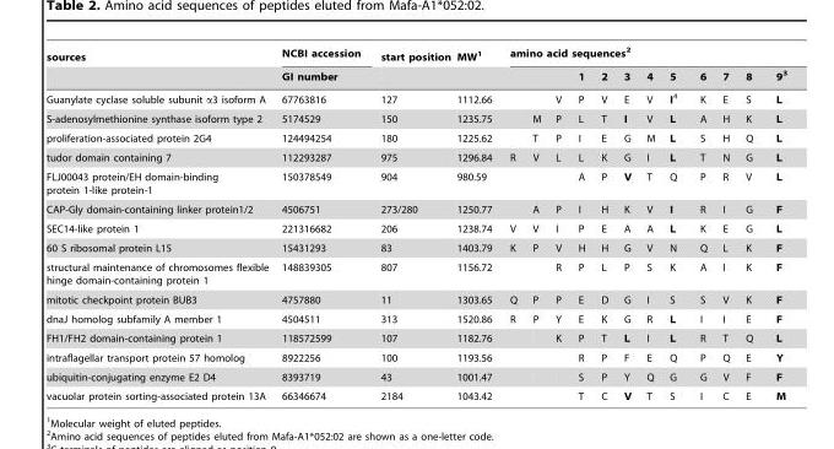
<table><thead><tr><td rowspan="2">sources</td><td rowspan="2">NCBI accession GI number</td><td rowspan="2">start position</td><td rowspan="2">MW<sup>1</sup></td><td colspan="12">amino acid sequences<sup>2</sup></td></tr><tr><td></td><td></td><td></td><td>1</td><td>2</td><td>3</td><td>4</td><td>5</td><td>6</td><td>7</td><td>8</td><td>9<sup>3</sup></td></tr></thead><tbody><tr><td>Guanylate cyclase soluble subunit α3 isoform A</td><td>67763816</td><td>127</td><td>1112.66</td><td></td><td></td><td>V</td><td>P</td><td>V</td><td>E</td><td>V</td><td>I4</td><td>K</td><td>E</td><td>S</td><td>L</td></tr><tr><td>S-adenosylmethionine synthase isoform type 2</td><td>5174529</td><td>150</td><td>1235.75</td><td></td><td>M</td><td>P</td><td>L</td><td>T</td><td>I</td><td>V</td><td>L</td><td>A</td><td>H</td><td>K</td><td>L</td></tr><tr><td>proliferation-associated protein 2G4</td><td>124494254</td><td>180</td><td>1225.62</td><td></td><td>T</td><td>P</td><td>I</td><td>E</td><td>G</td><td>M</td><td>L</td><td>S</td><td>H</td><td>Q</td><td>L</td></tr><tr><td>tudor domain containing 7</td><td>112293287</td><td>975</td><td>1296.84</td><td>R</td><td>V</td><td>L</td><td>L</td><td>K</td><td>G</td><td>I</td><td>L</td><td>T</td><td>N</td><td>G</td><td>L</td></tr><tr><td>FLJ00043 protein/EH domain-binding protein 1-like protein-1</td><td>150378549</td><td>904</td><td>980.59</td><td></td><td></td><td></td><td>A</td><td>P</td><td>V</td><td>T</td><td>Q</td><td>P</td><td>R</td><td>V</td><td>L</td></tr><tr><td>CAP-Gly domain-containing linker protein1/2</td><td>4506751</td><td>273/280</td><td>1250.77</td><td></td><td>A</td><td>P</td><td>I</td><td>H</td><td>K</td><td>V</td><td>I</td><td>R</td><td>I</td><td>G</td><td>F</td></tr><tr><td>SEC14-like protein 1</td><td>221316682</td><td>206</td><td>1238.74</td><td>V</td><td>V</td><td>I</td><td>P</td><td>E</td><td>A</td><td>A</td><td>L</td><td>K</td><td>E</td><td>G</td><td>L</td></tr><tr><td>60 S ribosomal protein L15</td><td>15431293</td><td>83</td><td>1403.79</td><td>K</td><td>P</td><td>V</td><td>H</td><td>H</td><td>G</td><td>V</td><td>N</td><td>Q</td><td>L</td><td>K</td><td>F</td></tr><tr><td>structural maintenance of chromosomes flexible hinge domain-containing protein 1</td><td>148839305</td><td>807</td><td>1156.72</td><td></td><td></td><td>R</td><td>P</td><td>L</td><td>P</td><td>S</td><td>K</td><td>A</td><td>I</td><td>K</td><td>F</td></tr><tr><td>mitotic checkpoint protein BUB3</td><td>4757880</td><td>11</td><td>1303.65</td><td>Q</td><td>P</td><td>P</td><td>E</td><td>D</td><td>G</td><td>I</td><td>S</td><td>S</td><td>V</td><td>K</td><td>F</td></tr><tr><td>dnaJ homolog subfamily A member 1</td><td>4504511</td><td>313</td><td>1520.86</td><td>R</td><td>P</td><td>Y</td><td>E</td><td>K</td><td>G</td><td>R</td><td>L</td><td>I</td><td>I</td><td>E</td><td>F</td></tr><tr><td>FH1/FH2 domain-containing protein 1</td><td>118572599</td><td>107</td><td>1182.76</td><td></td><td></td><td>K</td><td>P</td><td>T</td><td>L</td><td>I</td><td>L</td><td>R</td><td>T</td><td>Q</td><td>L</td></tr><tr><td>intraflagellar transport protein 57 homolog</td><td>8922256</td><td>100</td><td>1193.56</td><td></td><td></td><td></td><td>R</td><td>P</td><td>F</td><td>E</td><td>Q</td><td>P</td><td>Q</td><td>E</td><td>Y</td></tr><tr><td>ubiquitin-conjugating enzyme E2 D4</td><td>8393719</td><td>43</td><td>1001.47</td><td></td><td></td><td></td><td>S</td><td>P</td><td>Y</td><td>Q</td><td>G</td><td>G</td><td>V</td><td>F</td><td>F</td></tr><tr><td>vacuolar protein sorting-associated protein 13A</td><td>66346674</td><td>2184</td><td>1043.42</td><td></td><td></td><td></td><td>T</td><td>C</td><td>V</td><td>T</td><td>S</td><td>I</td><td>C</td><td>E</td><td>M</td></tr></tbody></table>